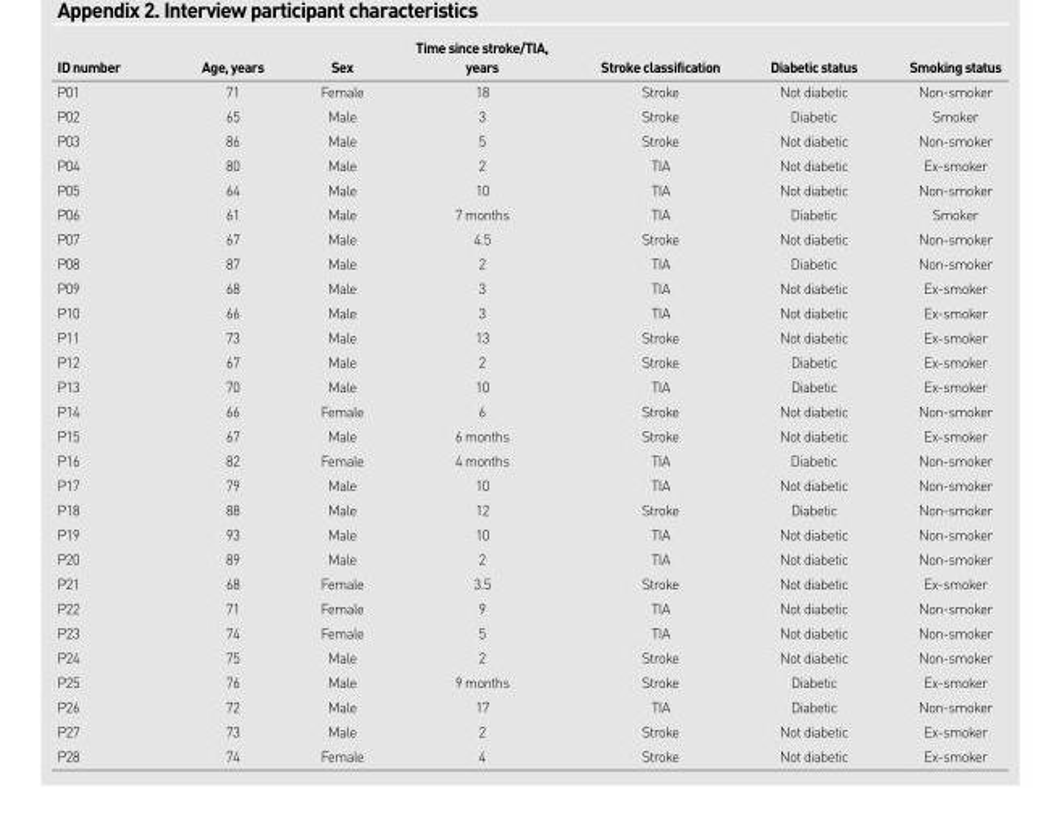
<table><thead><tr><td>ID number</td><td>Age, years</td><td>Sex</td><td>years</td><td>Stroke classification</td><td>Diabetic status</td><td>Smoking status</td></tr></thead><tbody><tr><td>P01</td><td>71</td><td>Female</td><td>18</td><td>Stroke</td><td>Not diabetic</td><td>Non-smoker</td></tr><tr><td>P02</td><td>65</td><td>Male</td><td>3</td><td>Stroke</td><td>Diabetic</td><td>Smoker</td></tr><tr><td>P03</td><td>86</td><td>Male</td><td>5</td><td>Stroke</td><td>Not diabetic</td><td>Non-smoker</td></tr><tr><td>P04</td><td>80</td><td>Male</td><td>2</td><td>TIA</td><td>Not diabetic</td><td>Ex-smoker</td></tr><tr><td>P05</td><td>64</td><td>Male</td><td>10</td><td>TIA</td><td>Not diabetic</td><td>Non-smoker</td></tr><tr><td>P06</td><td>61</td><td>Male</td><td>7 months</td><td>TIA</td><td>Diabetic</td><td>Smoker</td></tr><tr><td>P07</td><td>67</td><td>Male</td><td>4.5</td><td>Stroke</td><td>Not diabetic</td><td>Non-smoker</td></tr><tr><td>P08</td><td>87</td><td>Male</td><td>2</td><td>TIA</td><td>Diabetic</td><td>Non-smoker</td></tr><tr><td>P09</td><td>68</td><td>Male</td><td>3</td><td>TIA</td><td>Not diabetic</td><td>Ex-smoker</td></tr><tr><td>P10</td><td>66</td><td>Male</td><td>3</td><td>TIA</td><td>Not diabetic</td><td>Ex-smoker</td></tr><tr><td>P11</td><td>73</td><td>Male</td><td>13</td><td>Stroke</td><td>Not diabetic</td><td>Ex-smoker</td></tr><tr><td>P12</td><td>67</td><td>Male</td><td>2</td><td>Stroke</td><td>Diabetic</td><td>Ex-smoker</td></tr><tr><td>P13</td><td>70</td><td>Male</td><td>10</td><td>TIA</td><td>Diabetic</td><td>Ex-smoker</td></tr><tr><td>P14</td><td>66</td><td>Female</td><td>6</td><td>Stroke</td><td>Not diabetic</td><td>Non-smoker</td></tr><tr><td>P15</td><td>67</td><td>Male</td><td>6 months</td><td>Stroke</td><td>Not diabetic</td><td>Ex-smoker</td></tr><tr><td>P16</td><td>82</td><td>Female</td><td>4 months</td><td>TIA</td><td>Diabetic</td><td>Non-smoker</td></tr><tr><td>P17</td><td>79</td><td>Male</td><td>10</td><td>TIA</td><td>Not diabetic</td><td>Non-smoker</td></tr><tr><td>P18</td><td>88</td><td>Male</td><td>12</td><td>Stroke</td><td>Diabetic</td><td>Non-smoker</td></tr><tr><td>P19</td><td>93</td><td>Male</td><td>10</td><td>TIA</td><td>Not diabetic</td><td>Non-smoker</td></tr><tr><td>P20</td><td>89</td><td>Male</td><td>2</td><td>TIA</td><td>Not diabetic</td><td>Non-smoker</td></tr><tr><td>P21</td><td>68</td><td>Female</td><td>3.5</td><td>Stroke</td><td>Not diabetic</td><td>Ex-smoker</td></tr><tr><td>P22</td><td>71</td><td>Female</td><td>9</td><td>TIA</td><td>Not diabetic</td><td>Non-smoker</td></tr><tr><td>P23</td><td>74</td><td>Female</td><td>5</td><td>TIA</td><td>Not diabetic</td><td>Non-smoker</td></tr><tr><td>P24</td><td>75</td><td>Male</td><td>2</td><td>Stroke</td><td>Not diabetic</td><td>Non-smoker</td></tr><tr><td>P25</td><td>76</td><td>Male</td><td>9 months</td><td>Stroke</td><td>Diabetic</td><td>Ex-smoker</td></tr><tr><td>P26</td><td>72</td><td>Male</td><td>17</td><td>TIA</td><td>Diabetic</td><td>Non-smoker</td></tr><tr><td>P27</td><td>73</td><td>Male</td><td>2</td><td>Stroke</td><td>Not diabetic</td><td>Ex-smoker</td></tr><tr><td>P28</td><td>74</td><td>Female</td><td>4</td><td>Stroke</td><td>Not diabetic</td><td>Ex-smoker</td></tr></tbody></table>